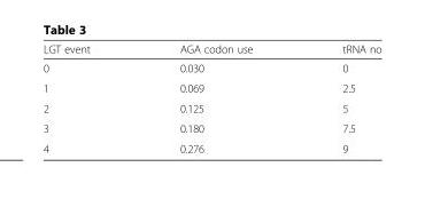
<table><thead><tr><td>LGT event</td><td>AGA codon use</td><td>tRNA no</td></tr></thead><tbody><tr><td>0</td><td>0.030</td><td>0</td></tr><tr><td>1</td><td>0.069</td><td>2.5</td></tr><tr><td>2</td><td>0.125</td><td>5</td></tr><tr><td>3</td><td>0.180</td><td>7.5</td></tr><tr><td>4</td><td>0.276</td><td>9</td></tr></tbody></table>